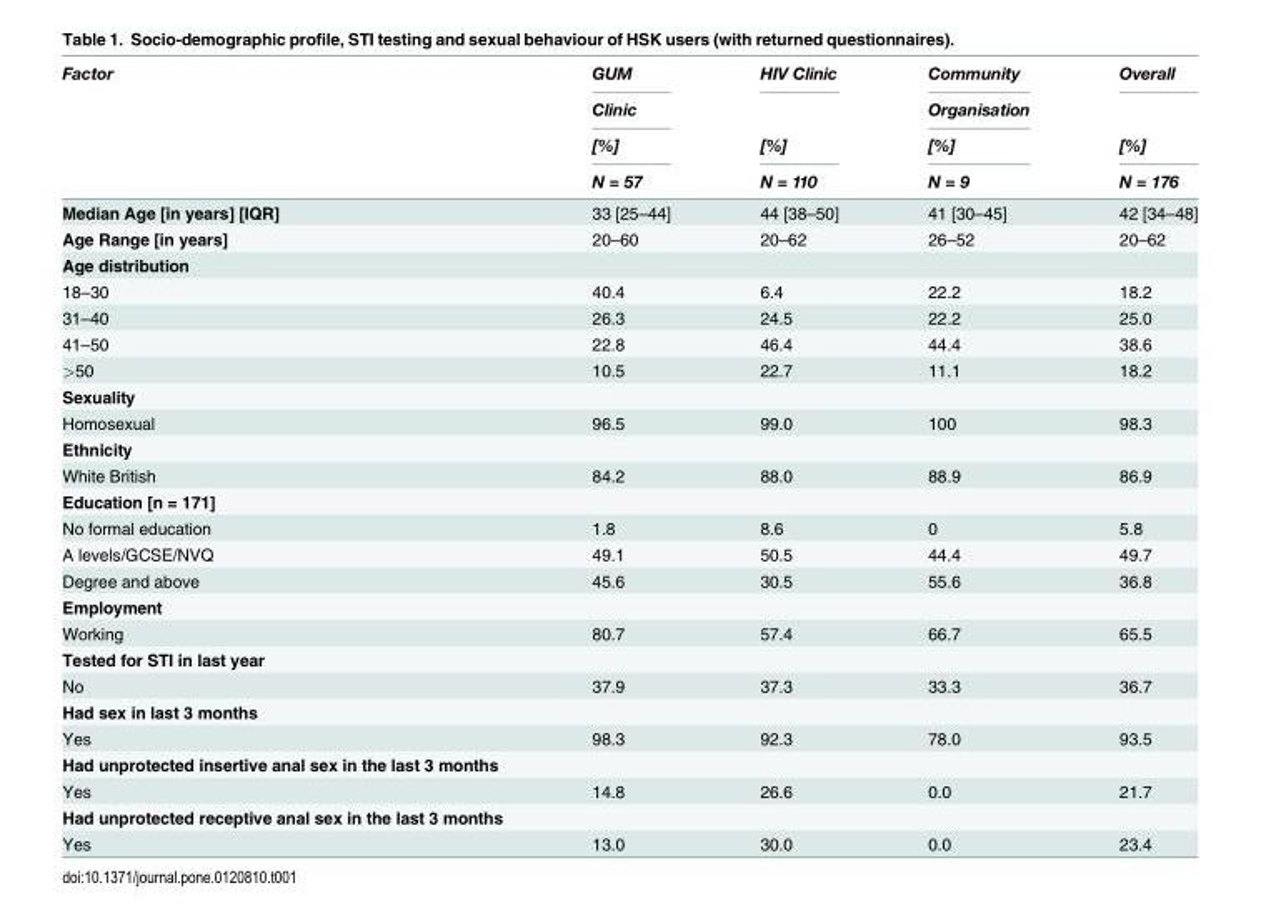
<table><thead><tr><td rowspan="4">Factor</td><td rowspan="4">GUM Clinic [%] N = 57</td><td rowspan="4">HIV Clinic [%] N = 110</td><td rowspan="4">Community Organisation [%] N = 9</td><td rowspan="4">Overall [%] N = 176</td></tr><tr></tr><tr></tr><tr></tr></thead><tbody><tr><td>Median Age [in years] [IQR]</td><td>33 [25–44]</td><td>44 [38–50]</td><td>41 [30–45]</td><td>42 [34–48]</td></tr><tr><td>Age Range [in years]</td><td>20–60</td><td>20–62</td><td>26–52</td><td>20–62</td></tr><tr><td colspan="5">Age distribution</td></tr><tr><td>18–30</td><td>40.4</td><td>6.4</td><td>22.2</td><td>18.2</td></tr><tr><td>31–40</td><td>26.3</td><td>24.5</td><td>22.2</td><td>25.0</td></tr><tr><td>41–50</td><td>22.8</td><td>46.4</td><td>44.4</td><td>38.6</td></tr><tr><td>&gt;50</td><td>10.5</td><td>22.7</td><td>11.1</td><td>18.2</td></tr><tr><td colspan="5">Sexuality</td></tr><tr><td>Homosexual</td><td>96.5</td><td>99.0</td><td>100</td><td>98.3</td></tr><tr><td colspan="5">Ethnicity</td></tr><tr><td>White British</td><td>84.2</td><td>88.0</td><td>88.9</td><td>86.9</td></tr><tr><td colspan="5">Education [n = 171]</td></tr><tr><td>No formal education</td><td>1.8</td><td>8.6</td><td>0</td><td>5.8</td></tr><tr><td>A levels/GCSE/NVQ</td><td>49.1</td><td>50.5</td><td>44.4</td><td>49.7</td></tr><tr><td>Degree and above</td><td>45.6</td><td>30.5</td><td>55.6</td><td>36.8</td></tr><tr><td colspan="5">Employment</td></tr><tr><td>Working</td><td>80.7</td><td>57.4</td><td>66.7</td><td>65.5</td></tr><tr><td colspan="5">Tested for STI in last year</td></tr><tr><td>No</td><td>37.9</td><td>37.3</td><td>33.3</td><td>36.7</td></tr><tr><td colspan="5">Had sex in last 3 months</td></tr><tr><td>Yes</td><td>98.3</td><td>92.3</td><td>78.0</td><td>93.5</td></tr><tr><td colspan="5">Had unprotected insertive anal sex in the last 3 months</td></tr><tr><td>Yes</td><td>14.8</td><td>26.6</td><td>0.0</td><td>21.7</td></tr><tr><td colspan="5">Had unprotected receptive anal sex in the last 3 months</td></tr><tr><td>Yes</td><td>13.0</td><td>30.0</td><td>0.0</td><td>23.4</td></tr></tbody></table>